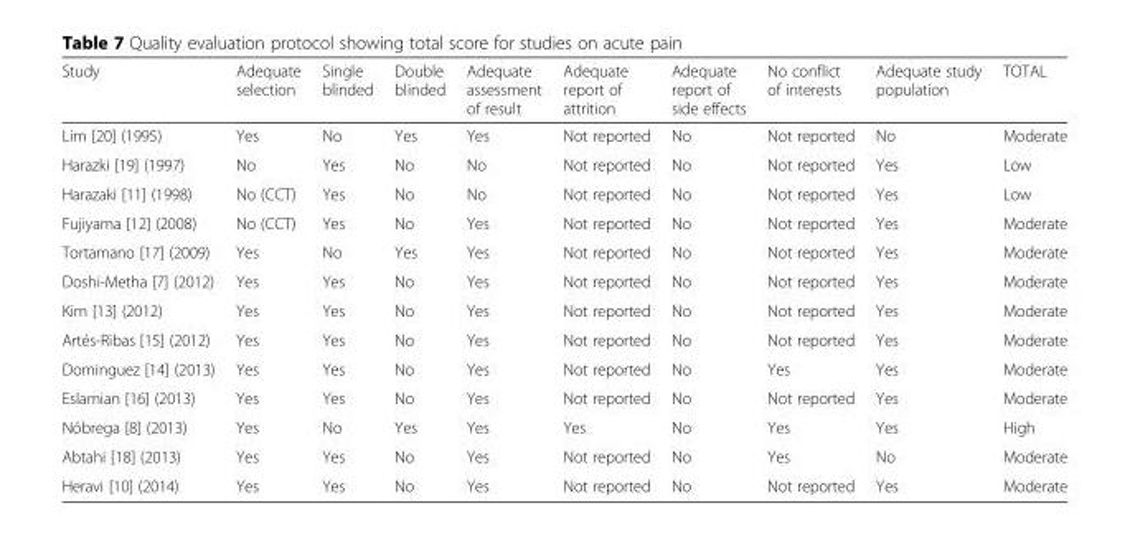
<table><thead><tr><td>Study</td><td>Adequate selection</td><td>Single blinded</td><td>Double blinded</td><td>Adequate assessment of result</td><td>Adequate report of attrition</td><td>Adequate report of side effects</td><td>No conflict of interests</td><td>Adequate study population</td><td>TOTAL</td></tr></thead><tbody><tr><td>Lim [20] (1995)</td><td>Yes</td><td>No</td><td>Yes</td><td>Yes</td><td>Not reported</td><td>No</td><td>Not reported</td><td>No</td><td>Moderate</td></tr><tr><td>Harazki [19] (1997)</td><td>No</td><td>Yes</td><td>No</td><td>No</td><td>Not reported</td><td>No</td><td>Not reported</td><td>Yes</td><td>Low</td></tr><tr><td>Harazaki [11] (1998)</td><td>No (CCT)</td><td>Yes</td><td>No</td><td>No</td><td>Not reported</td><td>No</td><td>Not reported</td><td>Yes</td><td>Low</td></tr><tr><td>Fujiyama [12] (2008)</td><td>No (CCT)</td><td>Yes</td><td>No</td><td>Yes</td><td>Not reported</td><td>No</td><td>Not reported</td><td>Yes</td><td>Moderate</td></tr><tr><td>Tortamano [17] (2009)</td><td>Yes</td><td>No</td><td>Yes</td><td>Yes</td><td>Not reported</td><td>No</td><td>Not reported</td><td>Yes</td><td>Moderate</td></tr><tr><td>Doshi-Metha [7] (2012)</td><td>Yes</td><td>Yes</td><td>No</td><td>Yes</td><td>Not reported</td><td>No</td><td>Not reported</td><td>Yes</td><td>Moderate</td></tr><tr><td>Kim [13] (2012)</td><td>Yes</td><td>Yes</td><td>No</td><td>Yes</td><td>Not reported</td><td>No</td><td>Not reported</td><td>Yes</td><td>Moderate</td></tr><tr><td>Artés-Ribas [15] (2012)</td><td>Yes</td><td>Yes</td><td>No</td><td>Yes</td><td>Not reported</td><td>No</td><td>Not reported</td><td>Yes</td><td>Moderate</td></tr><tr><td>Dominguez [14] (2013)</td><td>Yes</td><td>Yes</td><td>No</td><td>Yes</td><td>Not reported</td><td>No</td><td>Yes</td><td>Yes</td><td>Moderate</td></tr><tr><td>Eslamian [16] (2013)</td><td>Yes</td><td>Yes</td><td>No</td><td>Yes</td><td>Not reported</td><td>No</td><td>Not reported</td><td>Yes</td><td>Moderate</td></tr><tr><td>Nóbrega [8] (2013)</td><td>Yes</td><td>No</td><td>Yes</td><td>Yes</td><td>Yes</td><td>No</td><td>Yes</td><td>Yes</td><td>High</td></tr><tr><td>Abtahi [18] (2013)</td><td>Yes</td><td>Yes</td><td>No</td><td>Yes</td><td>Not reported</td><td>No</td><td>Yes</td><td>No</td><td>Moderate</td></tr><tr><td>Heravi [10] (2014)</td><td>Yes</td><td>Yes</td><td>No</td><td>Yes</td><td>Not reported</td><td>No</td><td>Not reported</td><td>Yes</td><td>Moderate</td></tr></tbody></table>